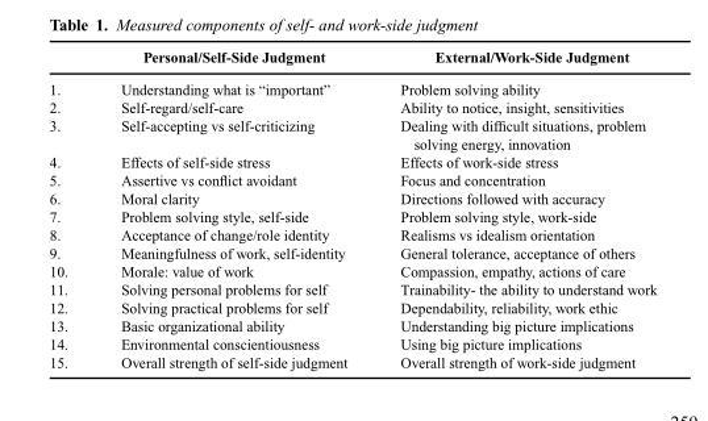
<table><thead><tr><td></td><td>Personal/Self-Side Judgment</td><td>External/Work-Side Judgment</td></tr></thead><tbody><tr><td>1.</td><td>Understanding what is “important”</td><td>Problem solving ability</td></tr><tr><td>2.</td><td>Self-regard/self-care</td><td>Ability to notice, insight, sensitivities</td></tr><tr><td>3.</td><td>Self-accepting vs self-criticizing</td><td>Dealing with difficult situations, problem solving energy, innovation</td></tr><tr><td>4.</td><td>Effects of self-side stress</td><td>Effects of work-side stress</td></tr><tr><td>5.</td><td>Assertive vs conflict avoidant</td><td>Focus and concentration</td></tr><tr><td>6.</td><td>Moral clarity</td><td>Directions followed with accuracy</td></tr><tr><td>7.</td><td>Problem solving style, self-side</td><td>Problem solving style, work-side</td></tr><tr><td>8.</td><td>Acceptance of change/role identity</td><td>Realisms vs idealism orientation</td></tr><tr><td>9.</td><td>Meaningfulness of work, self-identity</td><td>General tolerance, acceptance of others</td></tr><tr><td>10.</td><td>Morale: value of work</td><td>Compassion, empathy, actions of care</td></tr><tr><td>11.</td><td>Solving personal problems for self</td><td>Trainability- the ability to understand work</td></tr><tr><td>12.</td><td>Solving practical problems for self</td><td>Dependability, reliability, work ethic</td></tr><tr><td>13.</td><td>Basic organizational ability</td><td>Understanding big picture implications</td></tr><tr><td>14.</td><td>Environmental conscientiousness</td><td>Using big picture implications</td></tr><tr><td>15.</td><td>Overall strength of self-side judgment</td><td>Overall strength of work-side judgment</td></tr></tbody></table>